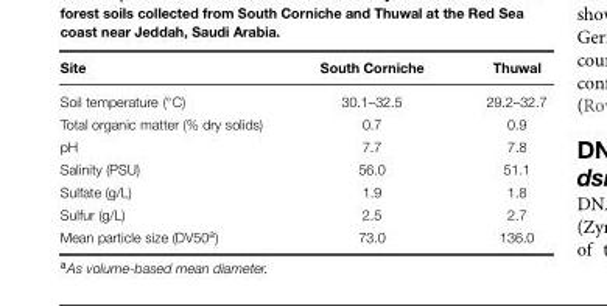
<table><thead><tr><td>Site</td><td>South Corniche</td><td>Thuwal</td></tr></thead><tbody><tr><td>Soil temperature (◦C)</td><td>30.1–32.5</td><td>29.2–32.7</td></tr><tr><td>Total organic matter (% dry solids)</td><td>0.7</td><td>0.9</td></tr><tr><td>pH</td><td>7.7</td><td>7.8</td></tr><tr><td>Salinity (PSU)</td><td>56.0</td><td>51.1</td></tr><tr><td>Sulfate (g/L)</td><td>1.9</td><td>1.8</td></tr><tr><td>Sulfur (g/L)</td><td>2.5</td><td>2.7</td></tr><tr><td>Mean particle size (DV50<sup>a</sup>)</td><td>73.0</td><td>136.0</td></tr></tbody></table>